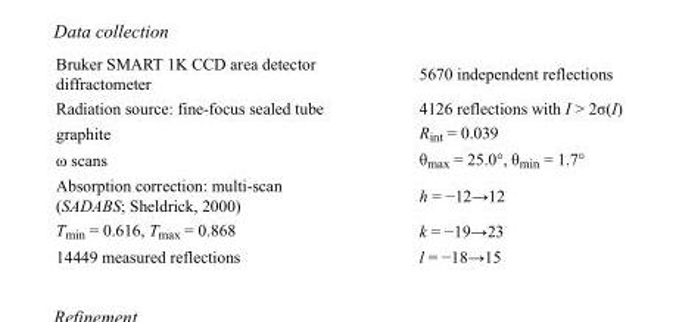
<table><tbody><tr><td>Bruker SMART 1K CCD area detector diffractometer</td><td>5670 independent reflections</td></tr><tr><td>Radiation source: fine-focus sealed tube</td><td>4126 reflections with I &gt; 2σ(I)</td></tr><tr><td>graphite</td><td>R<sub>int</sub> = 0.039</td></tr><tr><td>ω scans</td><td>θ<sub>max</sub> = 25.0°, θ<sub>min</sub> = 1.7°</td></tr><tr><td>Absorption correction: multi-scan (SADABS; Sheldrick, 2000)</td><td>h = −12→12</td></tr><tr><td>T<sub>min</sub> = 0.616, T<sub>max</sub> = 0.868</td><td>k = −19→23</td></tr><tr><td>14449 measured reflections</td><td>l = −18→15</td></tr></tbody></table>